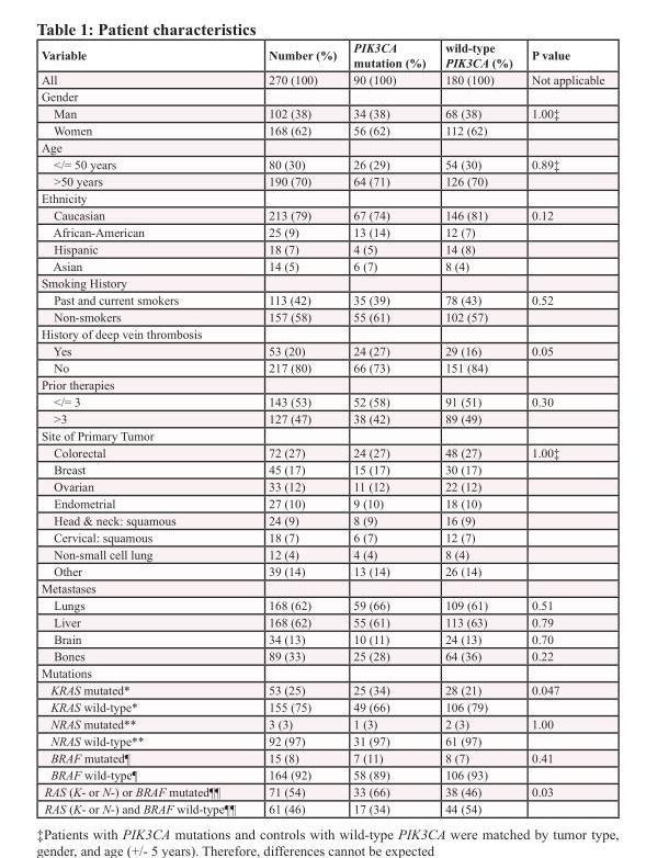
<table><thead><tr><td>Variable</td><td>Number (%)</td><td>PIK3CA mutation (%)</td><td>wild-type PIK3CA (%)</td><td>P value</td></tr></thead><tbody><tr><td>All</td><td>270 (100)</td><td>90 (100)</td><td>180 (100)</td><td>Not applicable</td></tr><tr><td colspan="5">Gender</td></tr><tr><td>Man</td><td>102 (38)</td><td>34 (38)</td><td>68 (38)</td><td>1.00‡</td></tr><tr><td>Women</td><td>168 (62)</td><td>56 (62)</td><td>112 (62)</td><td></td></tr><tr><td colspan="5">Age</td></tr><tr><td>&lt;/= 50 years</td><td>80 (30)</td><td>26 (29)</td><td>54 (30)</td><td>0.89‡</td></tr><tr><td>&gt;50 years</td><td>190 (70)</td><td>64 (71)</td><td>126 (70)</td><td></td></tr><tr><td colspan="5">Ethnicity</td></tr><tr><td>Caucasian</td><td>213 (79)</td><td>67 (74)</td><td>146 (81)</td><td>0.12</td></tr><tr><td>African-American</td><td>25 (9)</td><td>13 (14)</td><td>12 (7)</td><td></td></tr><tr><td>Hispanic</td><td>18 (7)</td><td>4 (5)</td><td>14 (8)</td><td></td></tr><tr><td>Asian</td><td>14 (5)</td><td>6 (7)</td><td>8 (4)</td><td></td></tr><tr><td colspan="5">Smoking History</td></tr><tr><td>Past and current smokers</td><td>113 (42)</td><td>35 (39)</td><td>78 (43)</td><td>0.52</td></tr><tr><td>Non-smokers</td><td>157 (58)</td><td>55 (61)</td><td>102 (57)</td><td></td></tr><tr><td colspan="5">History of deep vein thrombosis</td></tr><tr><td>Yes</td><td>53 (20)</td><td>24 (27)</td><td>29 (16)</td><td>0.05</td></tr><tr><td>No</td><td>217 (80)</td><td>66 (73)</td><td>151 (84)</td><td></td></tr><tr><td colspan="5">Prior therapies</td></tr><tr><td>&lt;/= 3</td><td>143 (53)</td><td>52 (58)</td><td>91 (51)</td><td>0.30</td></tr><tr><td>&gt;3</td><td>127 (47)</td><td>38 (42)</td><td>89 (49)</td><td></td></tr><tr><td colspan="5">Site of Primary Tumor</td></tr><tr><td>Colorectal</td><td>72 (27)</td><td>24 (27)</td><td>48 (27)</td><td>1.00‡</td></tr><tr><td>Breast</td><td>45 (17)</td><td>15 (17)</td><td>30 (17)</td><td></td></tr><tr><td>Ovarian</td><td>33 (12)</td><td>11 (12)</td><td>22 (12)</td><td></td></tr><tr><td>Endometrial</td><td>27 (10)</td><td>9 (10)</td><td>18 (10)</td><td></td></tr><tr><td>Head &amp; neck: squamous</td><td>24 (9)</td><td>8 (9)</td><td>16 (9)</td><td></td></tr><tr><td>Cervical: squamous</td><td>18 (7)</td><td>6 (7)</td><td>12 (7)</td><td></td></tr><tr><td>Non-small cell lung</td><td>12 (4)</td><td>4 (4)</td><td>8 (4)</td><td></td></tr><tr><td>Other</td><td>39 (14)</td><td>13 (14)</td><td>26 (14)</td><td></td></tr><tr><td colspan="5">Metastases</td></tr><tr><td>Lungs</td><td>168 (62)</td><td>59 (66)</td><td>109 (61)</td><td>0.51</td></tr><tr><td>Liver</td><td>168 (62)</td><td>55 (61)</td><td>113 (63)</td><td>0.79</td></tr><tr><td>Brain</td><td>34 (13)</td><td>10 (11)</td><td>24 (13)</td><td>0.70</td></tr><tr><td>Bones</td><td>89 (33)</td><td>25 (28)</td><td>64 (36)</td><td>0.22</td></tr><tr><td colspan="5">Mutations</td></tr><tr><td>KRAS mutated*</td><td>53 (25)</td><td>25 (34)</td><td>28 (21)</td><td>0.047</td></tr><tr><td>KRAS wild-type*</td><td>155 (75)</td><td>49 (66)</td><td>106 (79)</td><td></td></tr><tr><td>NRAS mutated**</td><td>3 (3)</td><td>1 (3)</td><td>2 (3)</td><td>1.00</td></tr><tr><td>NRAS wild-type**</td><td>92 (97)</td><td>31 (97)</td><td>61 (97)</td><td></td></tr><tr><td>BRAF mutated¶</td><td>15 (8)</td><td>7 (11)</td><td>8 (7)</td><td>0.41</td></tr><tr><td>BRAF wild-type¶</td><td>164 (92)</td><td>58 (89)</td><td>106 (93)</td><td></td></tr><tr><td>RAS (K- or N-) or BRAF mutated¶¶</td><td>71 (54)</td><td>33 (66)</td><td>38 (46)</td><td>0.03</td></tr><tr><td>RAS (K- or N-) and BRAF wild-type¶¶</td><td>61 (46)</td><td>17 (34)</td><td>44 (54)</td><td></td></tr></tbody></table>